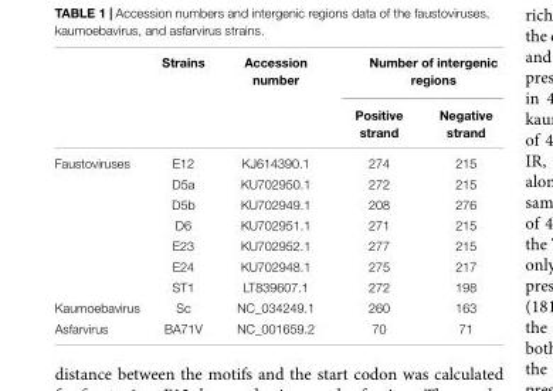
<table><thead><tr><td rowspan="2"></td><td rowspan="2">Strains</td><td rowspan="2">Accession number</td><td colspan="2">Number of intergenic regions</td></tr><tr><td>Positive strand</td><td>Negative strand</td></tr></thead><tbody><tr><td rowspan="7">Faustoviruses</td><td>E12</td><td>KJ614390.1</td><td>274</td><td>215</td></tr><tr><td>D5a</td><td>KU702950.1</td><td>272</td><td>215</td></tr><tr><td>D5b</td><td>KU702949.1</td><td>208</td><td>276</td></tr><tr><td>D6</td><td>KU702951.1</td><td>271</td><td>215</td></tr><tr><td>E23</td><td>KU702952.1</td><td>277</td><td>215</td></tr><tr><td>E24</td><td>KU702948.1</td><td>275</td><td>217</td></tr><tr><td>ST1</td><td>LT839607.1</td><td>272</td><td>198</td></tr><tr><td>Kaumoebavirus</td><td>Sc</td><td>NC_034249.1</td><td>260</td><td>163</td></tr><tr><td>Asfarvirus</td><td>BA71V</td><td>NC_001659.2</td><td>70</td><td>71</td></tr></tbody></table>